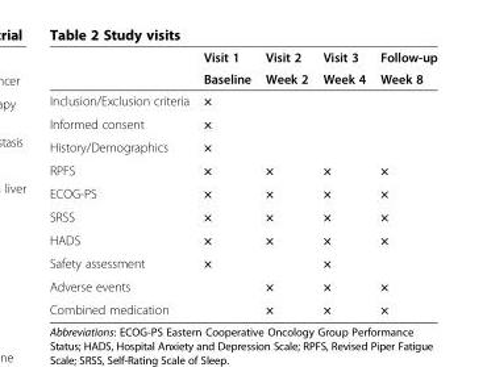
<table><thead><tr><td rowspan="2"></td><td rowspan="2">Visit 1 Baseline</td><td rowspan="2">Visit 2 Week 2</td><td rowspan="2">Visit 3 Week 4</td><td rowspan="2">Follow-up Week 8</td></tr><tr></tr></thead><tbody><tr><td>Inclusion/Exclusion criteria</td><td>×</td><td></td><td></td><td></td></tr><tr><td>Informed consent</td><td>×</td><td></td><td></td><td></td></tr><tr><td>History/Demographics</td><td>×</td><td></td><td></td><td></td></tr><tr><td>RPFS</td><td>×</td><td>×</td><td>×</td><td>×</td></tr><tr><td>ECOG-PS</td><td>×</td><td>×</td><td>×</td><td>×</td></tr><tr><td>SRSS</td><td>×</td><td>×</td><td>×</td><td>×</td></tr><tr><td>HADS</td><td>×</td><td>×</td><td>×</td><td>×</td></tr><tr><td>Safety assessment</td><td>×</td><td></td><td>×</td><td></td></tr><tr><td>Adverse events</td><td></td><td>×</td><td>×</td><td>×</td></tr><tr><td>Combined medication</td><td></td><td>×</td><td>×</td><td>×</td></tr></tbody></table>